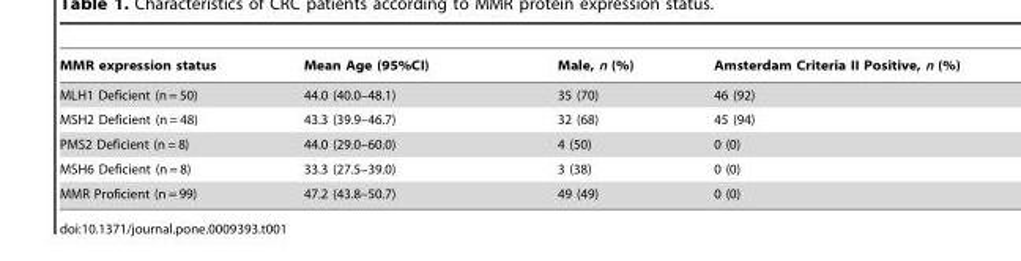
<table><thead><tr><td>MMR expression status</td><td>Mean Age (95%CI)</td><td>Male, n (%)</td><td>Amsterdam Criteria II Positive, n (%)</td></tr></thead><tbody><tr><td>MLH1 Deficient (n = 50)</td><td>44.0 (40.0–48.1)</td><td>35 (70)</td><td>46 (92)</td></tr><tr><td>MSH2 Deficient (n = 48)</td><td>43.3 (39.9–46.7)</td><td>32 (68)</td><td>45 (94)</td></tr><tr><td>PMS2 Deficient (n = 8)</td><td>44.0 (29.0–60.0)</td><td>4 (50)</td><td>0 (0)</td></tr><tr><td>MSH6 Deficient (n = 8)</td><td>33.3 (27.5–39.0)</td><td>3 (38)</td><td>0 (0)</td></tr><tr><td>MMR Proficient (n = 99)</td><td>47.2 (43.8–50.7)</td><td>49 (49)</td><td>0 (0)</td></tr></tbody></table>